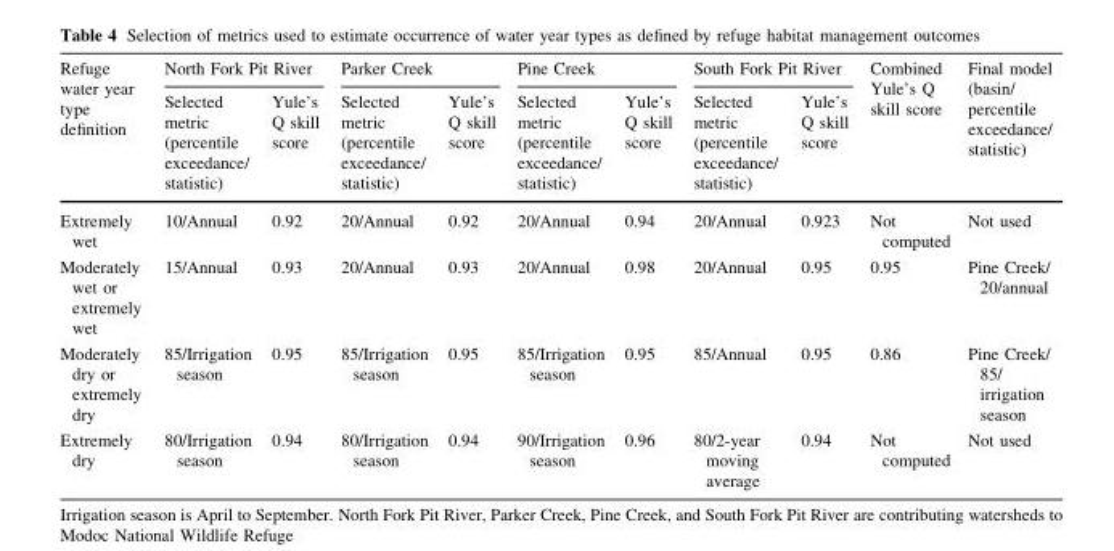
<table><thead><tr><td rowspan="2">Refuge water year type definition</td><td colspan="2">North Fork Pit River</td><td colspan="2">Parker Creek</td><td colspan="2">Pine Creek</td><td colspan="2">South Fork Pit River</td><td rowspan="2">Combined Yule’s Q skill score</td><td rowspan="2">Final model (basin/ percentile exceedance/ statistic)</td></tr><tr><td>Selected metric (percentile exceedance/ statistic)</td><td>Yule’s Q skill score</td><td>Selected metric (percentile exceedance/ statistic)</td><td>Yule’s Q skill score</td><td>Selected metric (percentile exceedance/ statistic)</td><td>Yule’s Q skill score</td><td>Selected metric (percentile exceedance/ statistic)</td><td>Yule’s Q skill score</td></tr></thead><tbody><tr><td>Extremely wet</td><td>10/Annual</td><td>0.92</td><td>20/Annual</td><td>0.92</td><td>20/Annual</td><td>0.94</td><td>20/Annual</td><td>0.923</td><td>Not computed</td><td>Not used</td></tr><tr><td>Moderately wet or extremely wet</td><td>15/Annual</td><td>0.93</td><td>20/Annual</td><td>0.93</td><td>20/Annual</td><td>0.98</td><td>20/Annual</td><td>0.95</td><td>0.95</td><td>Pine Creek/ 20/annual</td></tr><tr><td>Moderately dry or extremely dry</td><td>85/Irrigation season</td><td>0.95</td><td>85/Irrigation season</td><td>0.95</td><td>85/Irrigation season</td><td>0.95</td><td>85/Annual</td><td>0.95</td><td>0.86</td><td>Pine Creek/ 85/ irrigation season</td></tr><tr><td>Extremely dry</td><td>80/Irrigation season</td><td>0.94</td><td>80/Irrigation season</td><td>0.94</td><td>90/Irrigation season</td><td>0.96</td><td>80/2-year moving average</td><td>0.94</td><td>Not computed</td><td>Not used</td></tr></tbody></table>